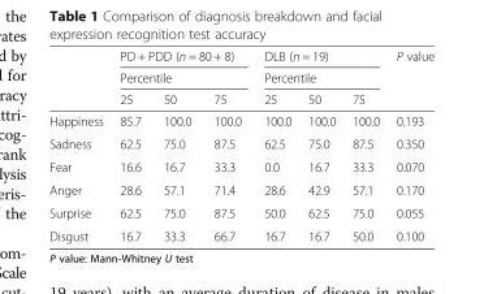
<table><thead><tr><td rowspan="3"></td><td rowspan="2" colspan="3">PD + PDD (n = 80 + 8) Percentile</td><td rowspan="2" colspan="3">DLB (n = 19) Percentile</td><td rowspan="3">P value</td></tr><tr></tr><tr><td>25</td><td>50</td><td>75</td><td>25</td><td>50</td><td>75</td></tr></thead><tbody><tr><td>Happiness</td><td>85.7</td><td>100.0</td><td>100.0</td><td>100.0</td><td>100.0</td><td>100.0</td><td>0.193</td></tr><tr><td>Sadness</td><td>62.5</td><td>75.0</td><td>87.5</td><td>62.5</td><td>75.0</td><td>87.5</td><td>0.350</td></tr><tr><td>Fear</td><td>16.6</td><td>16.7</td><td>33.3</td><td>0.0</td><td>16.7</td><td>33.3</td><td>0.070</td></tr><tr><td>Anger</td><td>28.6</td><td>57.1</td><td>71.4</td><td>28.6</td><td>42.9</td><td>57.1</td><td>0.170</td></tr><tr><td>Surprise</td><td>62.5</td><td>75.0</td><td>87.5</td><td>50.0</td><td>62.5</td><td>75.0</td><td>0.055</td></tr><tr><td>Disgust</td><td>16.7</td><td>33.3</td><td>66.7</td><td>16.7</td><td>16.7</td><td>50.0</td><td>0.100</td></tr></tbody></table>